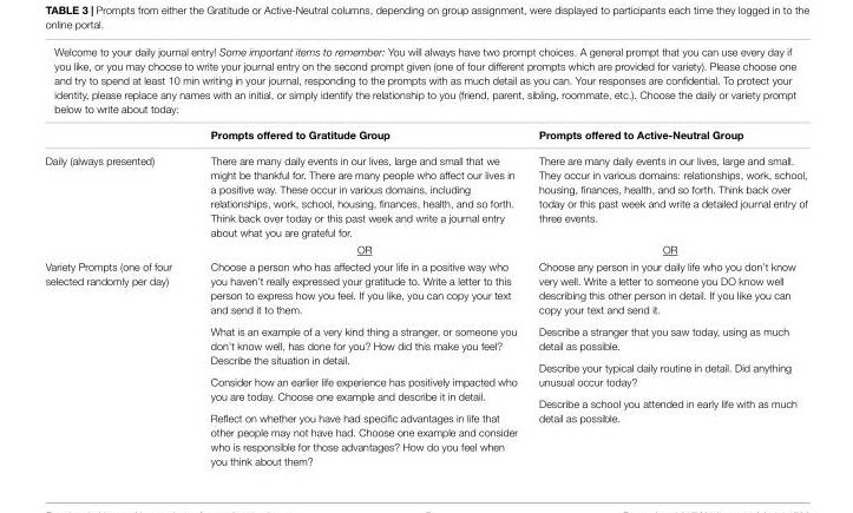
<table><tbody><tr><td colspan="3">Welcome to your daily journal entry! Some important items to remember: You will always have two prompt choices. A general prompt that you can use every day if you like, or you may choose to write your journal entry on the second prompt given (one of four different prompts which are provided for variety). Please choose one and try to spend at least 10 min writing in your journal, responding to the prompts with as much detail as you can. Your responses are confidential. To protect your identity, please replace any names with an initial, or simply identify the relationship to you (friend, parent, sibling, roommate, etc.). Choose the daily or variety prompt below to write about today:</td></tr><tr><td></td><td>Prompts offered to Gratitude Group</td><td>Prompts offered to Active-Neutral Group</td></tr><tr><td rowspan="2">Daily (always presented)</td><td>There are many daily events in our lives, large and small that we might be thankful for. There are many people who affect our lives in a positive way. These occur in various domains, including relationships, work, school, housing, finances, health, and so forth. Think back over today or this past week and write a journal entry about what you are grateful for.</td><td>There are many daily events in our lives, large and small. They occur in various domains: relationships, work, school, housing, finances, health, and so forth. Think back over today or this past week and write a detailed journal entry of three events.</td></tr><tr><td>OR</td><td>OR</td></tr><tr><td>Variety Prompts (one of four selected randomly per day)</td><td>Choose a person who has affected your life in a positive way who you haven’t really expressed your gratitude to. Write a letter to this person to express how you feel. If you like, you can copy your text and send it to them. What is an example of a very kind thing a stranger, or someone you don’t know well, has done for you? How did this make you feel? Describe the situation in detail. Consider how an earlier life experience has positively impacted who you are today. Choose one example and describe it in detail. Reflect on whether you have had specific advantages in life that other people may not have had. Choose one example and consider who is responsible for those advantages? How do you feel when you think about them?</td><td>Choose any person in your daily life who you don’t know very well. Write a letter to someone you DO know well describing this other person in detail. If you like you can copy your text and send it. Describe a stranger that you saw today, using as much detail as possible. Describe your typical daily routine in detail. Did anything unusual occur today? Describe a school you attended in early life with as much detail as possible.</td></tr></tbody></table>